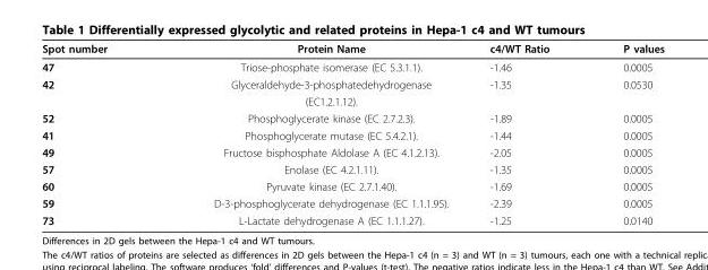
<table><thead><tr><td>Spot number</td><td>Protein Name</td><td>c4/WT Ratio</td><td>P values</td></tr></thead><tbody><tr><td>47</td><td>Triose-phosphate isomerase (EC 5.3.1.1).</td><td>-1.46</td><td>0.0005</td></tr><tr><td rowspan="2">42</td><td>Glyceraldehyde-3-phosphatedehydrogenase</td><td>-1.35</td><td>0.0530</td></tr><tr><td>(EC1.2.1.12).</td><td></td><td></td></tr><tr><td>52</td><td>Phosphoglycerate kinase (EC 2.7.2.3).</td><td>-1.89</td><td>0.0005</td></tr><tr><td>41</td><td>Phosphoglycerate mutase (EC 5.4.2.1).</td><td>-1.44</td><td>0.0005</td></tr><tr><td>49</td><td>Fructose bisphosphate Aldolase A (EC 4.1.2.13).</td><td>-2.05</td><td>0.0005</td></tr><tr><td>57</td><td>Enolase (EC 4.2.1.11).</td><td>-1.35</td><td>0.0005</td></tr><tr><td>60</td><td>Pyruvate kinase (EC 2.7.1.40).</td><td>-1.69</td><td>0.0005</td></tr><tr><td>59</td><td>D-3-phosphoglycerate dehydrogenase (EC 1.1.1.95).</td><td>-2.39</td><td>0.0005</td></tr><tr><td>73</td><td>L-Lactate dehydrogenase A (EC 1.1.1.27).</td><td>-1.25</td><td>0.0140</td></tr></tbody></table>